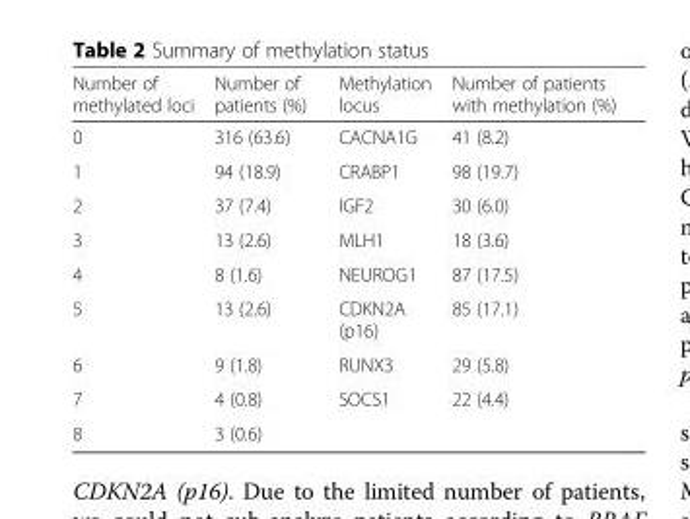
<table><thead><tr><td>Number of methylated loci</td><td>Number of patients (%)</td><td>Methylation locus</td><td>Number of patients with methylation (%)</td></tr></thead><tbody><tr><td>0</td><td>316 (63.6)</td><td>CACNA1G</td><td>41 (8.2)</td></tr><tr><td>1</td><td>94 (18.9)</td><td>CRABP1</td><td>98 (19.7)</td></tr><tr><td>2</td><td>37 (7.4)</td><td>IGF2</td><td>30 (6.0)</td></tr><tr><td>3</td><td>13 (2.6)</td><td>MLH1</td><td>18 (3.6)</td></tr><tr><td>4</td><td>8 (1.6)</td><td>NEUROG1</td><td>87 (17.5)</td></tr><tr><td>5</td><td>13 (2.6)</td><td>CDKN2A (p16)</td><td>85 (17.1)</td></tr><tr><td>6</td><td>9 (1.8)</td><td>RUNX3</td><td>29 (5.8)</td></tr><tr><td>7</td><td>4 (0.8)</td><td>SOCS1</td><td>22 (4.4)</td></tr><tr><td>8</td><td>3 (0.6)</td><td></td><td></td></tr></tbody></table>